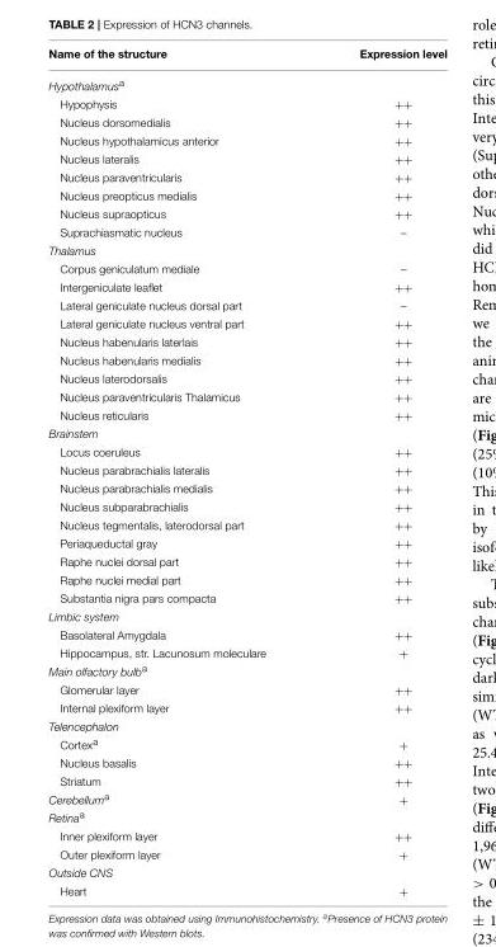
<table><thead><tr><td>Name of the structure</td><td>Expression level</td></tr></thead><tbody><tr><td colspan="2">Hypothalamus<sup>a</sup></td></tr><tr><td>Hypophysis</td><td>++</td></tr><tr><td>Nucleus dorsomedialis</td><td>++</td></tr><tr><td>Nucleus hypothalamicus anterior</td><td>++</td></tr><tr><td>Nucleus lateralis</td><td>++</td></tr><tr><td>Nucleus paraventricularis</td><td>++</td></tr><tr><td>Nucleus preopticus medialis</td><td>++</td></tr><tr><td>Nucleus supraopticus</td><td>++</td></tr><tr><td>Suprachiasmatic nucleus</td><td>–</td></tr><tr><td colspan="2">Thalamus</td></tr><tr><td>Corpus geniculatum mediale</td><td>–</td></tr><tr><td>Intergeniculate leaflet</td><td>++</td></tr><tr><td>Lateral geniculate nucleus dorsal part</td><td>–</td></tr><tr><td>Lateral geniculate nucleus ventral part</td><td>++</td></tr><tr><td>Nucleus habenularis laterlais</td><td>++</td></tr><tr><td>Nucleus habenularis medialis</td><td>++</td></tr><tr><td>Nucleus laterodorsalis</td><td>++</td></tr><tr><td>Nucleus paraventricularis Thalamicus</td><td>++</td></tr><tr><td>Nucleus reticularis</td><td>++</td></tr><tr><td colspan="2">Brainstem</td></tr><tr><td>Locus coeruleus</td><td>++</td></tr><tr><td>Nucleus parabrachialis lateralis</td><td>++</td></tr><tr><td>Nucleus parabrachialis medialis</td><td>++</td></tr><tr><td>Nucleus subparabrachialis</td><td>++</td></tr><tr><td>Nucleus tegmentalis, laterodorsal part</td><td>++</td></tr><tr><td>Periaqueductal gray</td><td>++</td></tr><tr><td>Raphe nuclei dorsal part</td><td>++</td></tr><tr><td>Raphe nuclei medial part</td><td>++</td></tr><tr><td>Substantia nigra pars compacta</td><td>++</td></tr><tr><td colspan="2">Limbic system</td></tr><tr><td>Basolateral Amygdala</td><td>++</td></tr><tr><td>Hippocampus, str. Lacunosum moleculare</td><td>+</td></tr><tr><td colspan="2">Main olfactory bulb<sup>a</sup></td></tr><tr><td>Glomerular layer</td><td>++</td></tr><tr><td>Internal plexiform layer</td><td>++</td></tr><tr><td colspan="2">Telencephalon</td></tr><tr><td>Cortex<sup>a</sup></td><td>+</td></tr><tr><td>Nucleus basalis</td><td>++</td></tr><tr><td>Striatum</td><td>++</td></tr><tr><td>Cerebellum<sup>a</sup></td><td>+</td></tr><tr><td colspan="2">Retina<sup>a</sup></td></tr><tr><td>Inner plexiform layer</td><td>++</td></tr><tr><td>Outer plexiform layer</td><td>+</td></tr><tr><td colspan="2">Outside CNS</td></tr><tr><td>Heart</td><td>+</td></tr></tbody></table>